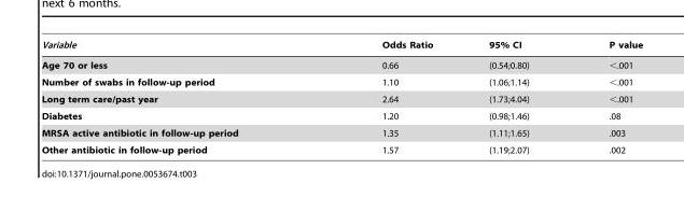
<table><thead><tr><td>Variable</td><td>Odds Ratio</td><td>95% CI</td><td>P value</td></tr></thead><tbody><tr><td>Age 70 or less</td><td>0.66</td><td>(0.54;0.80)</td><td>&lt;.001</td></tr><tr><td>Number of swabs in follow-up period</td><td>1.10</td><td>(1.06;1.14)</td><td>&lt;.001</td></tr><tr><td>Long term care/past year</td><td>2.64</td><td>(1.73;4.04)</td><td>&lt;.001</td></tr><tr><td>Diabetes</td><td>1.20</td><td>(0.98;1.46)</td><td>.08</td></tr><tr><td>MRSA active antibiotic in follow-up period</td><td>1.35</td><td>(1.11;1.65)</td><td>.003</td></tr><tr><td>Other antibiotic in follow-up period</td><td>1.57</td><td>(1.19;2.07)</td><td>.002</td></tr></tbody></table>